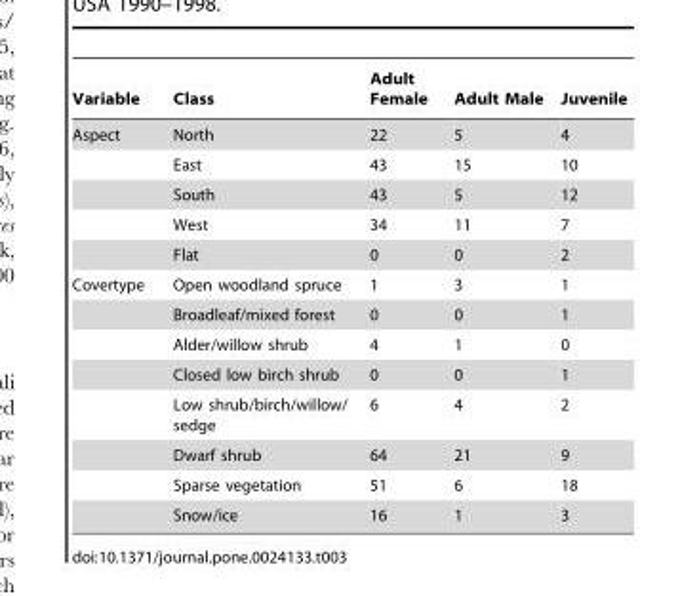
<table><thead><tr><td>Variable</td><td>Class</td><td>Adult Female</td><td>Adult Male</td><td>Juvenile</td></tr></thead><tbody><tr><td rowspan="5">Aspect</td><td>North</td><td>22</td><td>5</td><td>4</td></tr><tr><td>East</td><td>43</td><td>15</td><td>10</td></tr><tr><td>South</td><td>43</td><td>5</td><td>12</td></tr><tr><td>West</td><td>34</td><td>11</td><td>7</td></tr><tr><td>Flat</td><td>0</td><td>0</td><td>2</td></tr><tr><td rowspan="8">Covertype</td><td>Open woodland spruce</td><td>1</td><td>3</td><td>1</td></tr><tr><td>Broadleaf/mixed forest</td><td>0</td><td>0</td><td>1</td></tr><tr><td>Alder/willow shrub</td><td>4</td><td>1</td><td>0</td></tr><tr><td>Closed low birch shrub</td><td>0</td><td>0</td><td>1</td></tr><tr><td>Low shrub/birch/willow/ sedge</td><td>6</td><td>4</td><td>2</td></tr><tr><td>Dwarf shrub</td><td>64</td><td>21</td><td>9</td></tr><tr><td>Sparse vegetation</td><td>51</td><td>6</td><td>18</td></tr><tr><td>Snow/ice</td><td>16</td><td>1</td><td>3</td></tr></tbody></table>